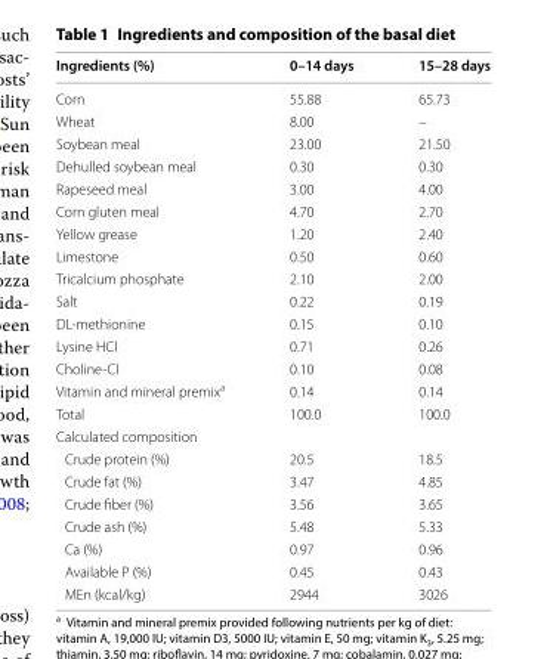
<table><thead><tr><td>Ingredients (%)</td><td>0–14 days</td><td>15–28 days</td></tr></thead><tbody><tr><td>Corn</td><td>55.88</td><td>65.73</td></tr><tr><td>Wheat</td><td>8.00</td><td>–</td></tr><tr><td>Soybean meal</td><td>23.00</td><td>21.50</td></tr><tr><td>Dehulled soybean meal</td><td>0.30</td><td>0.30</td></tr><tr><td>Rapeseed meal</td><td>3.00</td><td>4.00</td></tr><tr><td>Corn gluten meal</td><td>4.70</td><td>2.70</td></tr><tr><td>Yellow grease</td><td>1.20</td><td>2.40</td></tr><tr><td>Limestone</td><td>0.50</td><td>0.60</td></tr><tr><td>Tricalcium phosphate</td><td>2.10</td><td>2.00</td></tr><tr><td>Salt</td><td>0.22</td><td>0.19</td></tr><tr><td>DL‑methionine</td><td>0.15</td><td>0.10</td></tr><tr><td>Lysine HCl</td><td>0.71</td><td>0.26</td></tr><tr><td>Choline‑Cl</td><td>0.10</td><td>0.08</td></tr><tr><td>Vitamin and mineral premix<sup>a</sup></td><td>0.14</td><td>0.14</td></tr><tr><td>Total</td><td>100.0</td><td>100.0</td></tr><tr><td colspan="3">Calculated composition</td></tr><tr><td>Crude protein (%)</td><td>20.5</td><td>18.5</td></tr><tr><td>Crude fat (%)</td><td>3.47</td><td>4.85</td></tr><tr><td>Crude fiber (%)</td><td>3.56</td><td>3.65</td></tr><tr><td>Crude ash (%)</td><td>5.48</td><td>5.33</td></tr><tr><td>Ca (%)</td><td>0.97</td><td>0.96</td></tr><tr><td>Available P (%)</td><td>0.45</td><td>0.43</td></tr><tr><td>MEn (kcal/kg)</td><td>2944</td><td>3026</td></tr></tbody></table>